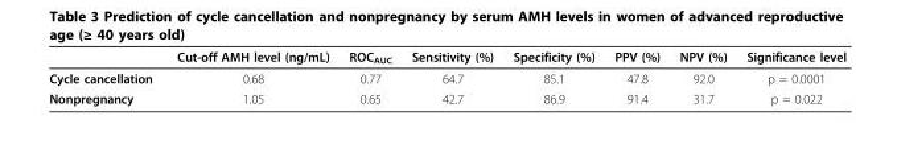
<table><thead><tr><td></td><td>Cut-off AMH level (ng/mL)</td><td>ROC<sub>AUC</sub></td><td>Sensitivity (%)</td><td>Specificity (%)</td><td>PPV (%)</td><td>NPV (%)</td><td>Significance level</td></tr></thead><tbody><tr><td>Cycle cancellation</td><td>0.68</td><td>0.77</td><td>64.7</td><td>85.1</td><td>47.8</td><td>92.0</td><td>p = 0.0001</td></tr><tr><td>Nonpregnancy</td><td>1.05</td><td>0.65</td><td>42.7</td><td>86.9</td><td>91.4</td><td>31.7</td><td>p = 0.022</td></tr></tbody></table>